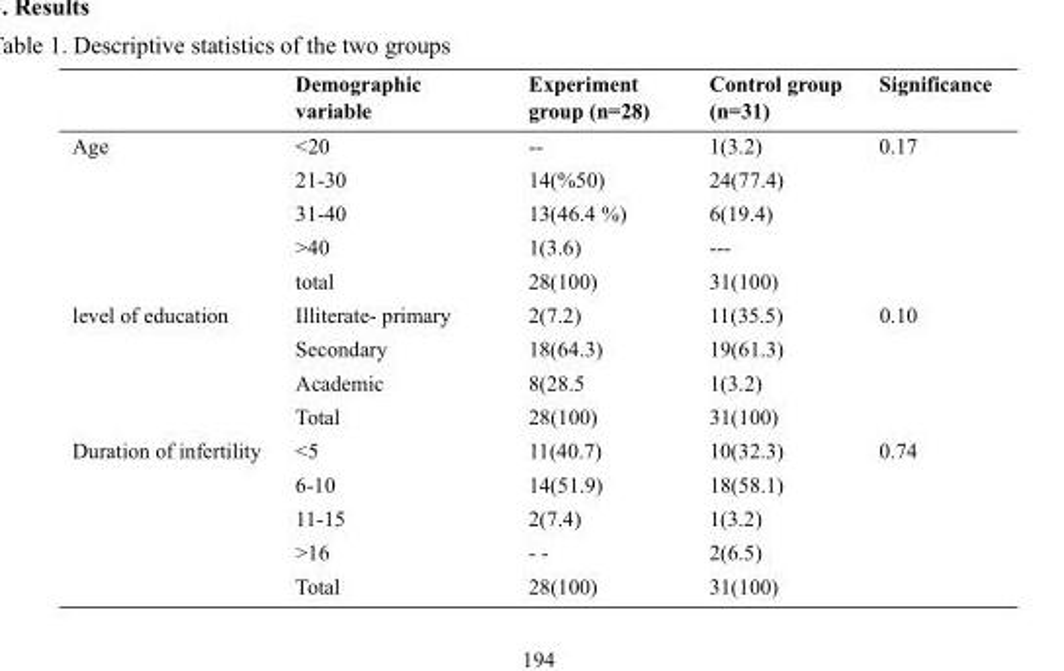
<table><thead><tr><td></td><td>Demographic variable</td><td>Experiment group (n=28)</td><td>Control group (n=31)</td><td>Significance</td></tr></thead><tbody><tr><td rowspan="5">Age</td><td>&lt;20</td><td>--</td><td>1(3.2)</td><td rowspan="5">0.17</td></tr><tr><td>21-30</td><td>14(%50)</td><td>24(77.4)</td></tr><tr><td>31-40</td><td>13(46.4 %)</td><td>6(19.4)</td></tr><tr><td>&gt;40</td><td>1(3.6)</td><td>---</td></tr><tr><td>total</td><td>28(100)</td><td>31(100)</td></tr><tr><td rowspan="4">level of education</td><td>Illiterate- primary</td><td>2(7.2)</td><td>11(35.5)</td><td rowspan="4">0.10</td></tr><tr><td>Secondary</td><td>18(64.3)</td><td>19(61.3)</td></tr><tr><td>Academic</td><td>8(28.5</td><td>1(3.2)</td></tr><tr><td>Total</td><td>28(100)</td><td>31(100)</td></tr><tr><td rowspan="5">Duration of infertility</td><td>&lt;5</td><td>11(40.7)</td><td>10(32.3)</td><td rowspan="5">0.74</td></tr><tr><td>6-10</td><td>14(51.9)</td><td>18(58.1)</td></tr><tr><td>11-15</td><td>2(7.4)</td><td>1(3.2)</td></tr><tr><td>&gt;16</td><td>- -</td><td>2(6.5)</td></tr><tr><td>Total</td><td>28(100)</td><td>31(100)</td></tr></tbody></table>